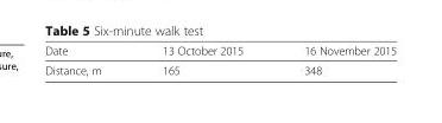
<table><thead><tr><td>Date</td><td>13 October 2015</td><td>16 November 2015</td></tr></thead><tbody><tr><td>Distance, m</td><td>165</td><td>348</td></tr></tbody></table>